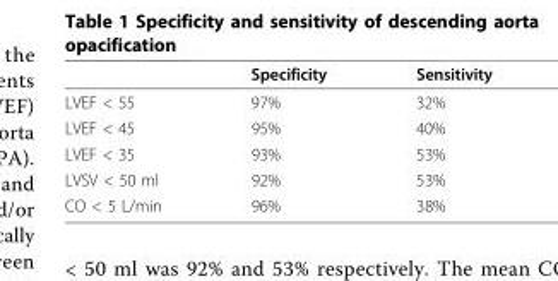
<table><thead><tr><td></td><td>Specificity</td><td>Sensitivity</td></tr></thead><tbody><tr><td>LVEF &lt; 55</td><td>97%</td><td>32%</td></tr><tr><td>LVEF &lt; 45</td><td>95%</td><td>40%</td></tr><tr><td>LVEF &lt; 35</td><td>93%</td><td>53%</td></tr><tr><td>LVSV &lt; 50 ml</td><td>92%</td><td>53%</td></tr><tr><td>CO &lt; 5 L/min</td><td>96%</td><td>38%</td></tr></tbody></table>